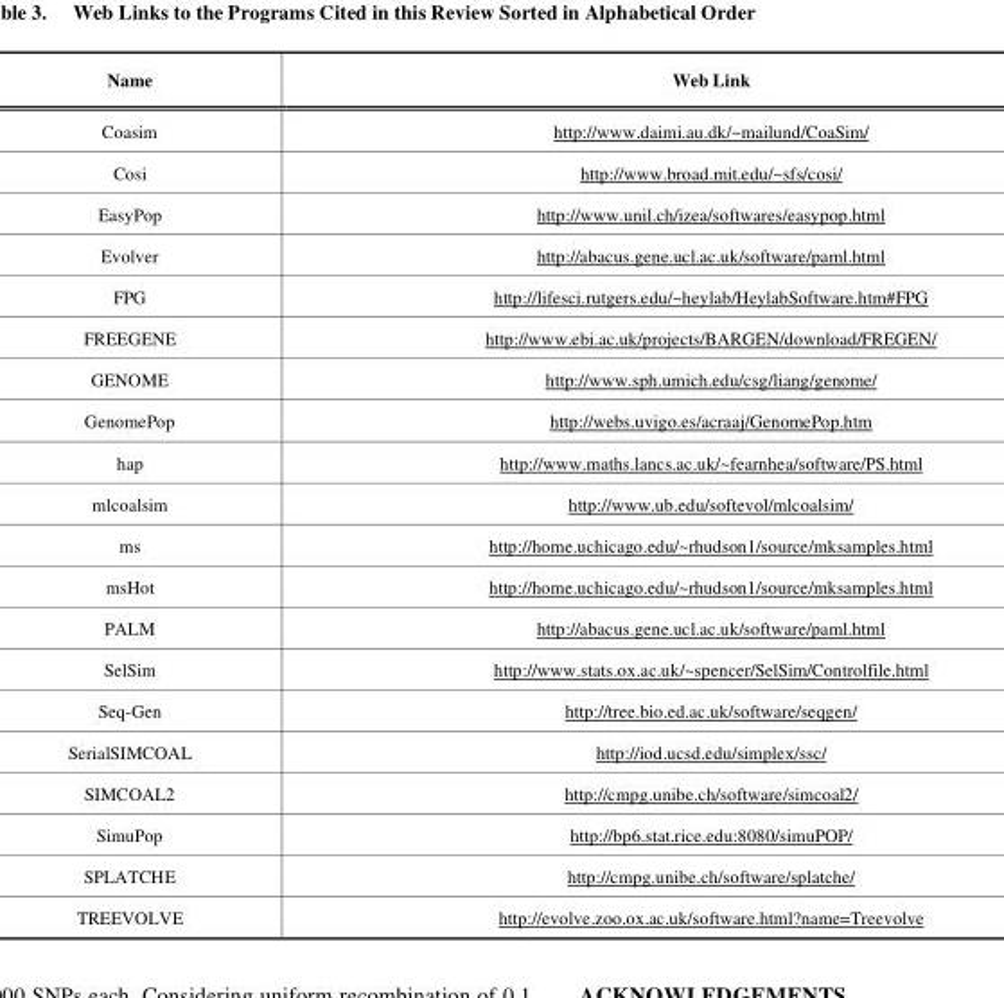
<table><thead><tr><td>Name</td><td>Web Link</td></tr></thead><tbody><tr><td>Coasim</td><td>http://www.daimi.au.dk/~mailund/CoaSim/</td></tr><tr><td>Cosi</td><td>http://www.broad.mit.edu/~sfs/cosi/</td></tr><tr><td>EasyPop</td><td>http://www.unil.ch/izea/softwares/easypop.html</td></tr><tr><td>Evolver</td><td>http://abacus.gene.ucl.ac.uk/software/paml.html</td></tr><tr><td>FPG</td><td>http://lifesci.rutgers.edu/~heylab/HeylabSoftware.htm#FPG</td></tr><tr><td>FREEGENE</td><td>http://www.ebi.ac.uk/projects/BARGEN/download/FREGEN/</td></tr><tr><td>GENOME</td><td>http://www.sph.umich.edu/csg/liang/genome/</td></tr><tr><td>GenomePop</td><td>http://webs.uvigo.es/acraaj/GenomePop.htm</td></tr><tr><td>hap</td><td>http://www.maths.lancs.ac.uk/~fearnhea/software/PS.html</td></tr><tr><td>mlcoalsim</td><td>http://www.ub.edu/softevol/mlcoalsim/</td></tr><tr><td>ms</td><td>http://home.uchicago.edu/~rhudson1/source/mksamples.html</td></tr><tr><td>msHot</td><td>http://home.uchicago.edu/~rhudson1/source/mksamples.html</td></tr><tr><td>PALM</td><td>http://abacus.gene.ucl.ac.uk/software/paml.html</td></tr><tr><td>SelSim</td><td>http://www.stats.ox.ac.uk/~spencer/SelSim/Controlfile.html</td></tr><tr><td>Seq-Gen</td><td>http://tree.bio.ed.ac.uk/software/seqgen/</td></tr><tr><td>SerialSIMCOAL</td><td>http://iod.ucsd.edu/simplex/ssc/</td></tr><tr><td>SIMCOAL2</td><td>http://cmpg.unibe.ch/software/simcoal2/</td></tr><tr><td>SimuPop</td><td>http://bp6.stat.rice.edu:8080/simuPOP/</td></tr><tr><td>SPLATCHE</td><td>http://cmpg.unibe.ch/software/splatche/</td></tr><tr><td>TREEVOLVE</td><td>http://evolve.zoo.ox.ac.uk/software.html?name=Treevolve</td></tr></tbody></table>